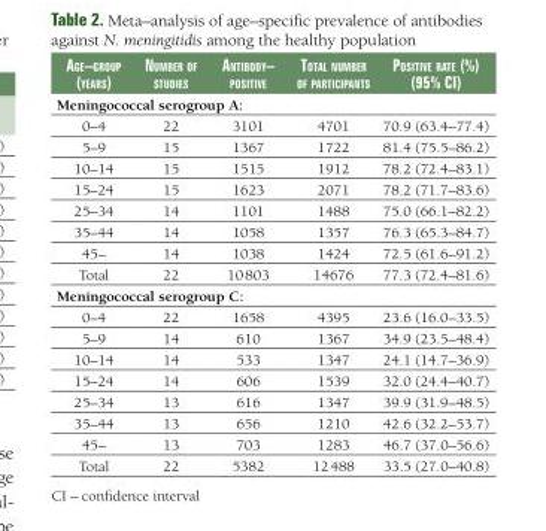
<table><thead><tr><td>age–group (Years)</td><td>nuMber of studIes</td><td>antIbodY– posItIve</td><td>total nuMber of partIcIpants</td><td>posItIve rate (%) (95% cI)</td></tr></thead><tbody><tr><td colspan="5">Meningococcal serogroup A:</td></tr><tr><td>0–4</td><td>22</td><td>3101</td><td>4701</td><td>70.9 (63.4–77.4)</td></tr><tr><td>5–9</td><td>15</td><td>1367</td><td>1722</td><td>81.4 (75.5–86.2)</td></tr><tr><td>10–14</td><td>15</td><td>1515</td><td>1912</td><td>78.2 (72.4–83.1)</td></tr><tr><td>15–24</td><td>15</td><td>1623</td><td>2071</td><td>78.2 (71.7–83.6)</td></tr><tr><td>25–34</td><td>14</td><td>1101</td><td>1488</td><td>75.0 (66.1–82.2)</td></tr><tr><td>35–44</td><td>14</td><td>1058</td><td>1357</td><td>76.3 (65.3–84.7)</td></tr><tr><td>45–</td><td>14</td><td>1038</td><td>1424</td><td>72.5 (61.6–91.2)</td></tr><tr><td>Total</td><td>22</td><td>10 803</td><td>14676</td><td>77.3 (72.4–81.6)</td></tr><tr><td colspan="5">Meningococcal serogroup C:</td></tr><tr><td>0–4</td><td>22</td><td>1658</td><td>4395</td><td>23.6 (16.0–33.5)</td></tr><tr><td>5–9</td><td>14</td><td>610</td><td>1367</td><td>34.9 (23.5–48.4)</td></tr><tr><td>10–14</td><td>14</td><td>533</td><td>1347</td><td>24.1 (14.7–36.9)</td></tr><tr><td>15–24</td><td>14</td><td>606</td><td>1539</td><td>32.0 (24.4–40.7)</td></tr><tr><td>25–34</td><td>13</td><td>616</td><td>1347</td><td>39.9 (31.9–48.5)</td></tr><tr><td>35–44</td><td>13</td><td>656</td><td>1210</td><td>42.6 (32.2–53.7)</td></tr><tr><td>45–</td><td>13</td><td>703</td><td>1283</td><td>46.7 (37.0–56.6)</td></tr><tr><td>Total</td><td>22</td><td>5382</td><td>12 488</td><td>33.5 (27.0–40.8)</td></tr></tbody></table>